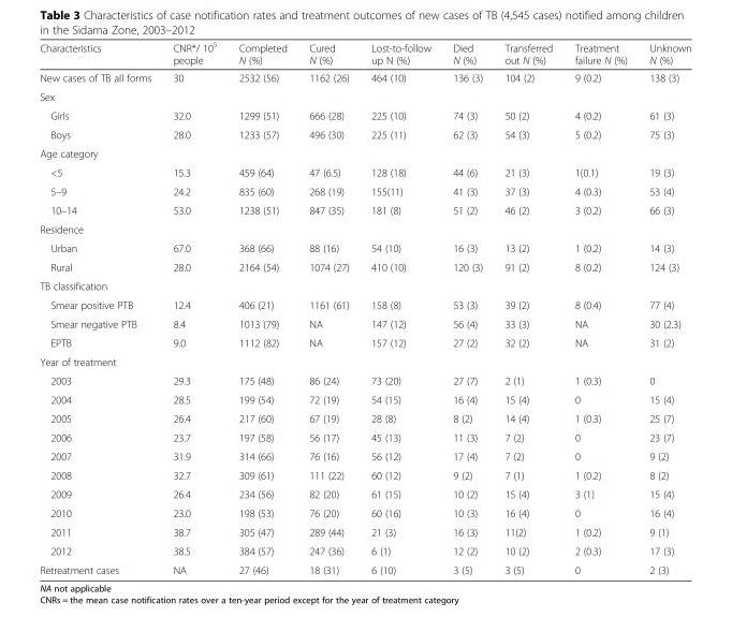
<table><thead><tr><td>Characteristics</td><td>CNR*/ 10<sup>5</sup> people</td><td>Completed N (%)</td><td>Cured N (%)</td><td>Lost-to-follow up N (%)</td><td>Died N (%)</td><td>Transferred out N (%)</td><td>Treatment failure N (%)</td><td>Unknown N (%)</td></tr></thead><tbody><tr><td>New cases of TB all forms</td><td>30</td><td>2532 (56)</td><td>1162 (26)</td><td>464 (10)</td><td>136 (3)</td><td>104 (2)</td><td>9 (0.2)</td><td>138 (3)</td></tr><tr><td colspan="9">Sex</td></tr><tr><td>Girls</td><td>32.0</td><td>1299 (51)</td><td>666 (28)</td><td>225 (10)</td><td>74 (3)</td><td>50 (2)</td><td>4 (0.2)</td><td>61 (3)</td></tr><tr><td>Boys</td><td>28.0</td><td>1233 (57)</td><td>496 (30)</td><td>225 (11)</td><td>62 (3)</td><td>54 (3)</td><td>5 (0.2)</td><td>75 (3)</td></tr><tr><td colspan="9">Age category</td></tr><tr><td>&lt;5</td><td>15.3</td><td>459 (64)</td><td>47 (6.5)</td><td>128 (18)</td><td>44 (6)</td><td>21 (3)</td><td>1(0.1)</td><td>19 (3)</td></tr><tr><td>5–9</td><td>24.2</td><td>835 (60)</td><td>268 (19)</td><td>155(11)</td><td>41 (3)</td><td>37 (3)</td><td>4 (0.3)</td><td>53 (4)</td></tr><tr><td>10–14</td><td>53.0</td><td>1238 (51)</td><td>847 (35)</td><td>181 (8)</td><td>51 (2)</td><td>46 (2)</td><td>3 (0.2)</td><td>66 (3)</td></tr><tr><td colspan="9">Residence</td></tr><tr><td>Urban</td><td>67.0</td><td>368 (66)</td><td>88 (16)</td><td>54 (10)</td><td>16 (3)</td><td>13 (2)</td><td>1 (0.2)</td><td>14 (3)</td></tr><tr><td>Rural</td><td>28.0</td><td>2164 (54)</td><td>1074 (27)</td><td>410 (10)</td><td>120 (3)</td><td>91 (2)</td><td>8 (0.2)</td><td>124 (3)</td></tr><tr><td colspan="9">TB classification</td></tr><tr><td>Smear positive PTB</td><td>12.4</td><td>406 (21)</td><td>1161 (61)</td><td>158 (8)</td><td>53 (3)</td><td>39 (2)</td><td>8 (0.4)</td><td>77 (4)</td></tr><tr><td>Smear negative PTB</td><td>8.4</td><td>1013 (79)</td><td>NA</td><td>147 (12)</td><td>56 (4)</td><td>33 (3)</td><td>NA</td><td>30 (2.3)</td></tr><tr><td>EPTB</td><td>9.0</td><td>1112 (82)</td><td>NA</td><td>157 (12)</td><td>27 (2)</td><td>32 (2)</td><td>NA</td><td>31 (2)</td></tr><tr><td colspan="9">Year of treatment</td></tr><tr><td>2003</td><td>29.3</td><td>175 (48)</td><td>86 (24)</td><td>73 (20)</td><td>27 (7)</td><td>2 (1)</td><td>1 (0.3)</td><td>0</td></tr><tr><td>2004</td><td>28.5</td><td>199 (54)</td><td>72 (19)</td><td>54 (15)</td><td>16 (4)</td><td>15 (4)</td><td>0</td><td>15 (4)</td></tr><tr><td>2005</td><td>26.4</td><td>217 (60)</td><td>67 (19)</td><td>28 (8)</td><td>8 (2)</td><td>14 (4)</td><td>1 (0.3)</td><td>25 (7)</td></tr><tr><td>2006</td><td>23.7</td><td>197 (58)</td><td>56 (17)</td><td>45 (13)</td><td>11 (3)</td><td>7 (2)</td><td>0</td><td>23 (7)</td></tr><tr><td>2007</td><td>31.9</td><td>314 (66)</td><td>76 (16)</td><td>56 (12)</td><td>17 (4)</td><td>7 (2)</td><td>0</td><td>9 (2)</td></tr><tr><td>2008</td><td>32.7</td><td>309 (61)</td><td>111 (22)</td><td>60 (12)</td><td>9 (2)</td><td>7 (1)</td><td>1 (0.2)</td><td>8 (2)</td></tr><tr><td>2009</td><td>26.4</td><td>234 (56)</td><td>82 (20)</td><td>61 (15)</td><td>10 (2)</td><td>15 (4)</td><td>3 (1)</td><td>15 (4)</td></tr><tr><td>2010</td><td>23.0</td><td>198 (53)</td><td>76 (20)</td><td>60 (16)</td><td>10 (3)</td><td>16 (4)</td><td>0</td><td>16 (4)</td></tr><tr><td>2011</td><td>38.7</td><td>305 (47)</td><td>289 (44)</td><td>21 (3)</td><td>16 (3)</td><td>11(2)</td><td>1 (0.2)</td><td>9 (1)</td></tr><tr><td>2012</td><td>38.5</td><td>384 (57)</td><td>247 (36)</td><td>6 (1)</td><td>12 (2)</td><td>10 (2)</td><td>2 (0.3)</td><td>17 (3)</td></tr><tr><td>Retreatment cases</td><td>NA</td><td>27 (46)</td><td>18 (31)</td><td>6 (10)</td><td>3 (5)</td><td>3 (5)</td><td>0</td><td>2 (3)</td></tr></tbody></table>